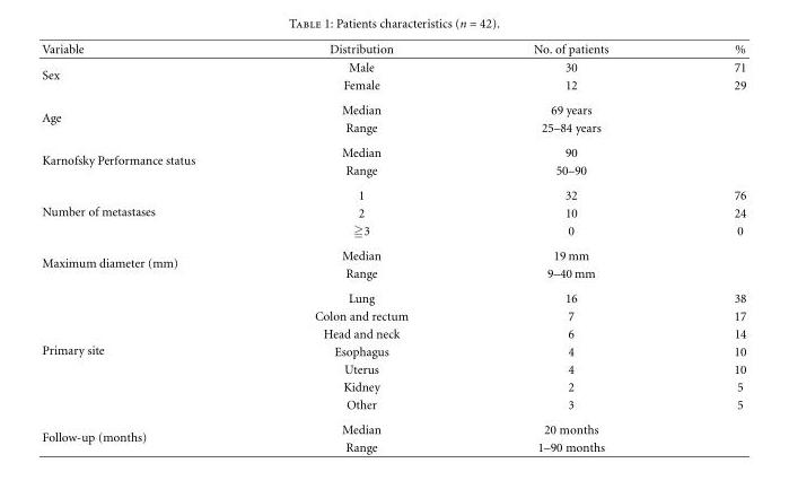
<table><thead><tr><td>Variable</td><td>Distribution</td><td>No. of patients</td><td>%</td></tr></thead><tbody><tr><td rowspan="2">Sex</td><td>Male</td><td>30</td><td>71</td></tr><tr><td>Female</td><td>12</td><td>29</td></tr><tr><td rowspan="2">Age</td><td>Median</td><td>69 years</td><td></td></tr><tr><td>Range</td><td>25–84 years</td><td></td></tr><tr><td rowspan="2">Karnofsky Performance status</td><td>Median</td><td>90</td><td></td></tr><tr><td>Range</td><td>50–90</td><td></td></tr><tr><td rowspan="3">Number of metastases</td><td>1</td><td>32</td><td>76</td></tr><tr><td>2</td><td>10</td><td>24</td></tr><tr><td>≧3</td><td>0</td><td>0</td></tr><tr><td rowspan="2">Maximum diameter (mm)</td><td>Median</td><td>19 mm</td><td></td></tr><tr><td>Range</td><td>9–40 mm</td><td></td></tr><tr><td rowspan="7">Primary site</td><td>Lung</td><td>16</td><td>38</td></tr><tr><td>Colon and rectum</td><td>7</td><td>17</td></tr><tr><td>Head and neck</td><td>6</td><td>14</td></tr><tr><td>Esophagus</td><td>4</td><td>10</td></tr><tr><td>Uterus</td><td>4</td><td>10</td></tr><tr><td>Kidney</td><td>2</td><td>5</td></tr><tr><td>Other</td><td>3</td><td>5</td></tr><tr><td rowspan="2">Follow-up (months)</td><td>Median</td><td>20 months</td><td></td></tr><tr><td>Range</td><td>1–90 months</td><td></td></tr></tbody></table>